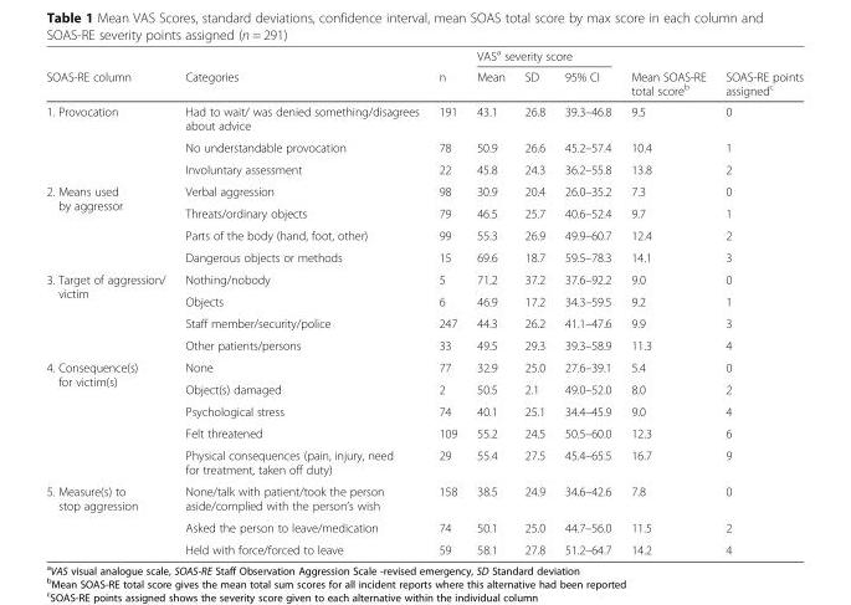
<table><thead><tr><td rowspan="2">SOAS-RE column</td><td rowspan="2">Categories</td><td rowspan="2">n</td><td colspan="3">VAS<sup>a</sup> severity score</td><td rowspan="2">Mean SOAS-RE total score<sup>b</sup></td><td rowspan="2">SOAS-RE points assigned<sup>c</sup></td></tr><tr><td>Mean</td><td>SD</td><td>95% CI</td></tr></thead><tbody><tr><td rowspan="3">1. Provocation</td><td>Had to wait/ was denied something/disagrees about advice</td><td>191</td><td>43.1</td><td>26.8</td><td>39.3–46.8</td><td>9.5</td><td>0</td></tr><tr><td>No understandable provocation</td><td>78</td><td>50.9</td><td>26.6</td><td>45.2–57.4</td><td>10.4</td><td>1</td></tr><tr><td>Involuntary assessment</td><td>22</td><td>45.8</td><td>24.3</td><td>36.2–55.8</td><td>13.8</td><td>2</td></tr><tr><td rowspan="4">2. Means used by aggressor</td><td>Verbal aggression</td><td>98</td><td>30.9</td><td>20.4</td><td>26.0–35.2</td><td>7.3</td><td>0</td></tr><tr><td>Threats/ordinary objects</td><td>79</td><td>46.5</td><td>25.7</td><td>40.6–52.4</td><td>9.7</td><td>1</td></tr><tr><td>Parts of the body (hand, foot, other)</td><td>99</td><td>55.3</td><td>26.9</td><td>49.9–60.7</td><td>12.4</td><td>2</td></tr><tr><td>Dangerous objects or methods</td><td>15</td><td>69.6</td><td>18.7</td><td>59.5–78.3</td><td>14.1</td><td>3</td></tr><tr><td rowspan="4">3. Target of aggression/ victim</td><td>Nothing/nobody</td><td>5</td><td>71.2</td><td>37.2</td><td>37.6–92.2</td><td>9.0</td><td>0</td></tr><tr><td>Objects</td><td>6</td><td>46.9</td><td>17.2</td><td>34.3–59.5</td><td>9.2</td><td>1</td></tr><tr><td>Staff member/security/police</td><td>247</td><td>44.3</td><td>26.2</td><td>41.1–47.6</td><td>9.9</td><td>3</td></tr><tr><td>Other patients/persons</td><td>33</td><td>49.5</td><td>29.3</td><td>39.3–58.9</td><td>11.3</td><td>4</td></tr><tr><td rowspan="5">4. Consequence(s) for victim(s)</td><td>None</td><td>77</td><td>32.9</td><td>25.0</td><td>27.6–39.1</td><td>5.4</td><td>0</td></tr><tr><td>Object(s) damaged</td><td>2</td><td>50.5</td><td>2.1</td><td>49.0–52.0</td><td>8.0</td><td>2</td></tr><tr><td>Psychological stress</td><td>74</td><td>40.1</td><td>25.1</td><td>34.4–45.9</td><td>9.0</td><td>4</td></tr><tr><td>Felt threatened</td><td>109</td><td>55.2</td><td>24.5</td><td>50.5–60.0</td><td>12.3</td><td>6</td></tr><tr><td>Physical consequences (pain, injury, need for treatment, taken off duty)</td><td>29</td><td>55.4</td><td>27.5</td><td>45.4–65.5</td><td>16.7</td><td>9</td></tr><tr><td rowspan="3">5. Measure(s) to stop aggression</td><td>None/talk with patient/took the person aside/complied with the person’s wish</td><td>158</td><td>38.5</td><td>24.9</td><td>34.6–42.6</td><td>7.8</td><td>0</td></tr><tr><td>Asked the person to leave/medication</td><td>74</td><td>50.1</td><td>25.0</td><td>44.7–56.0</td><td>11.5</td><td>2</td></tr><tr><td>Held with force/forced to leave</td><td>59</td><td>58.1</td><td>27.8</td><td>51.2–64.7</td><td>14.2</td><td>4</td></tr></tbody></table>